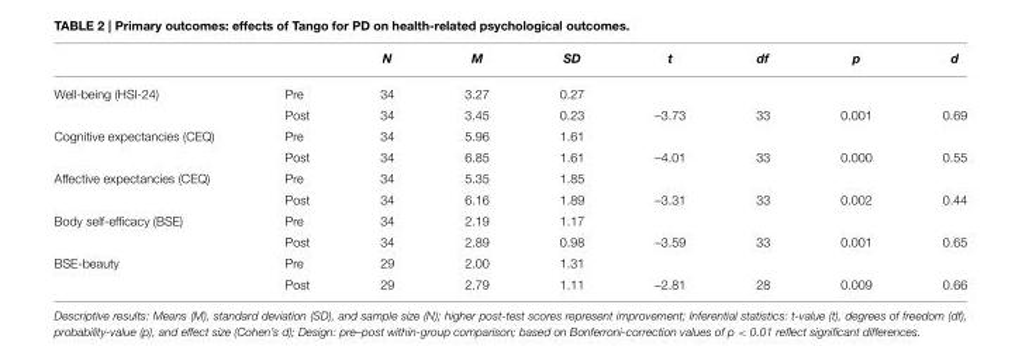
<table><thead><tr><td></td><td></td><td>N</td><td>M</td><td>SD</td><td>t</td><td>df</td><td>p</td><td>d</td></tr></thead><tbody><tr><td rowspan="2">Well-being (HSI-24)</td><td>Pre</td><td>34</td><td>3.27</td><td>0.27</td><td></td><td></td><td></td><td></td></tr><tr><td>Post</td><td>34</td><td>3.45</td><td>0.23</td><td>–3.73</td><td>33</td><td>0.001</td><td>0.69</td></tr><tr><td rowspan="2">Cognitive expectancies (CEQ)</td><td>Pre</td><td>34</td><td>5.96</td><td>1.61</td><td></td><td></td><td></td><td></td></tr><tr><td>Post</td><td>34</td><td>6.85</td><td>1.61</td><td>–4.01</td><td>33</td><td>0.000</td><td>0.55</td></tr><tr><td rowspan="2">Affective expectancies (CEQ)</td><td>Pre</td><td>34</td><td>5.35</td><td>1.85</td><td></td><td></td><td></td><td></td></tr><tr><td>Post</td><td>34</td><td>6.16</td><td>1.89</td><td>–3.31</td><td>33</td><td>0.002</td><td>0.44</td></tr><tr><td rowspan="2">Body self-efficacy (BSE)</td><td>Pre</td><td>34</td><td>2.19</td><td>1.17</td><td></td><td></td><td></td><td></td></tr><tr><td>Post</td><td>34</td><td>2.89</td><td>0.98</td><td>–3.59</td><td>33</td><td>0.001</td><td>0.65</td></tr><tr><td rowspan="2">BSE-beauty</td><td>Pre</td><td>29</td><td>2.00</td><td>1.31</td><td></td><td></td><td></td><td></td></tr><tr><td>Post</td><td>29</td><td>2.79</td><td>1.11</td><td>–2.81</td><td>28</td><td>0.009</td><td>0.66</td></tr></tbody></table>